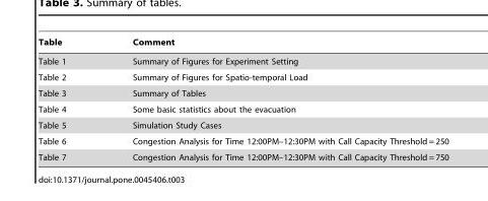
<table><thead><tr><td>Table</td><td>Comment</td></tr></thead><tbody><tr><td>Table 1</td><td>Summary of Figures for Experiment Setting</td></tr><tr><td>Table 2</td><td>Summary of Figures for Spatio-temporal Load</td></tr><tr><td>Table 3</td><td>Summary of Tables</td></tr><tr><td>Table 4</td><td>Some basic statistics about the evacuation</td></tr><tr><td>Table 5</td><td>Simulation Study Cases</td></tr><tr><td>Table 6</td><td>Congestion Analysis for Time 12:00PM–12:30PM with Call Capacity Threshold = 250</td></tr><tr><td>Table 7</td><td>Congestion Analysis for Time 12:00PM–12:30PM with Call Capacity Threshold = 750</td></tr></tbody></table>